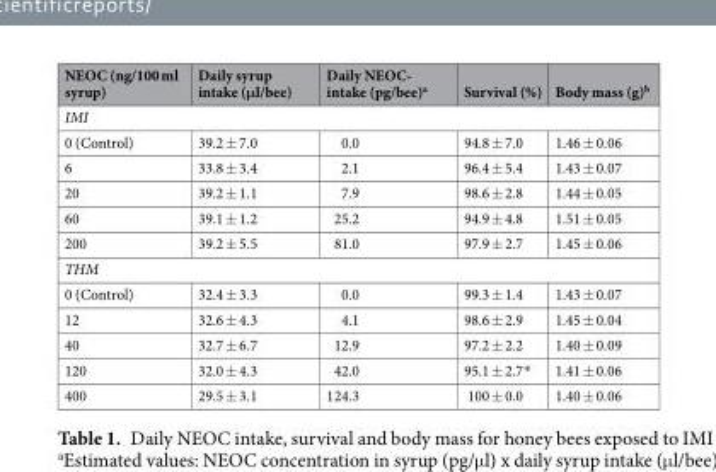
<table><thead><tr><td>NEOC (ng/100 ml syrup)</td><td>Daily syrup intake (μl/bee)</td><td>Daily NEOC- intake (pg/bee)<sup>a</sup></td><td>Survival (%)</td><td>Body mass (g)<sup>b</sup></td></tr></thead><tbody><tr><td colspan="5">IMI</td></tr><tr><td>0 (Control)</td><td>39.2 ± 7.0</td><td>0.0</td><td>94.8 ± 7.0</td><td>1.46 ± 0.06</td></tr><tr><td>6</td><td>33.8 ± 3.4</td><td>2.1</td><td>96.4 ± 5.4</td><td>1.43 ± 0.07</td></tr><tr><td>20</td><td>39.2 ± 1.1</td><td>7.9</td><td>98.6 ± 2.8</td><td>1.44 ± 0.05</td></tr><tr><td>60</td><td>39.1 ± 1.2</td><td>25.2</td><td>94.9 ± 4.8</td><td>1.51 ± 0.05</td></tr><tr><td>200</td><td>39.2 ± 5.5</td><td>81.0</td><td>97.9 ± 2.7</td><td>1.45 ± 0.06</td></tr><tr><td colspan="5">THM</td></tr><tr><td>0 (Control)</td><td>32.4 ± 3.3</td><td>0.0</td><td>99.3 ± 1.4</td><td>1.43 ± 0.07</td></tr><tr><td>12</td><td>32.6 ± 4.3</td><td>4.1</td><td>98.6 ± 2.9</td><td>1.45 ± 0.04</td></tr><tr><td>40</td><td>32.7 ± 6.7</td><td>12.9</td><td>97.2 ± 2.2</td><td>1.40 ± 0.09</td></tr><tr><td>120</td><td>32.0 ± 4.3</td><td>42.0</td><td>95.1 ± 2.7*</td><td>1.41 ± 0.06</td></tr><tr><td>400</td><td>29.5 ± 3.1</td><td>124.3</td><td>100 ± 0.0</td><td>1.40 ± 0.06</td></tr></tbody></table>